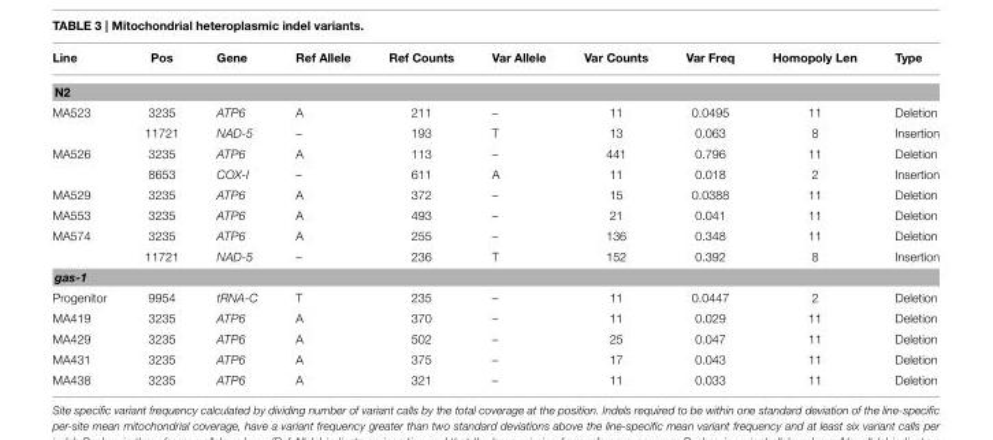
<table><thead><tr><td>Line</td><td>Pos</td><td>Gene</td><td>Ref Allele</td><td>Ref Counts</td><td>Var Allele</td><td>Var Counts</td><td>Var Freq</td><td>Homopoly Len</td><td>Type</td></tr></thead><tbody><tr><td colspan="10">N2</td></tr><tr><td rowspan="2">MA523</td><td>3235</td><td>ATP6</td><td>A</td><td>211</td><td>–</td><td>11</td><td>0.0495</td><td>11</td><td>Deletion</td></tr><tr><td>11721</td><td>NAD-5</td><td>–</td><td>193</td><td>T</td><td>13</td><td>0.063</td><td>8</td><td>Insertion</td></tr><tr><td rowspan="2">MA526</td><td>3235</td><td>ATP6</td><td>A</td><td>113</td><td>–</td><td>441</td><td>0.796</td><td>11</td><td>Deletion</td></tr><tr><td>8653</td><td>COX-I</td><td>–</td><td>611</td><td>A</td><td>11</td><td>0.018</td><td>2</td><td>Insertion</td></tr><tr><td>MA529</td><td>3235</td><td>ATP6</td><td>A</td><td>372</td><td>–</td><td>15</td><td>0.0388</td><td>11</td><td>Deletion</td></tr><tr><td>MA553</td><td>3235</td><td>ATP6</td><td>A</td><td>493</td><td>–</td><td>21</td><td>0.041</td><td>11</td><td>Deletion</td></tr><tr><td rowspan="2">MA574</td><td>3235</td><td>ATP6</td><td>A</td><td>255</td><td>–</td><td>136</td><td>0.348</td><td>11</td><td>Deletion</td></tr><tr><td>11721</td><td>NAD-5</td><td>–</td><td>236</td><td>T</td><td>152</td><td>0.392</td><td>8</td><td>Insertion</td></tr><tr><td colspan="10">gas-1</td></tr><tr><td>Progenitor</td><td>9954</td><td>tRNA-C</td><td>T</td><td>235</td><td>–</td><td>11</td><td>0.0447</td><td>2</td><td>Deletion</td></tr><tr><td>MA419</td><td>3235</td><td>ATP6</td><td>A</td><td>370</td><td>–</td><td>11</td><td>0.029</td><td>11</td><td>Deletion</td></tr><tr><td>MA429</td><td>3235</td><td>ATP6</td><td>A</td><td>502</td><td>–</td><td>25</td><td>0.047</td><td>11</td><td>Deletion</td></tr><tr><td>MA431</td><td>3235</td><td>ATP6</td><td>A</td><td>375</td><td>–</td><td>17</td><td>0.043</td><td>11</td><td>Deletion</td></tr><tr><td>MA438</td><td>3235</td><td>ATP6</td><td>A</td><td>321</td><td>–</td><td>11</td><td>0.033</td><td>11</td><td>Deletion</td></tr></tbody></table>